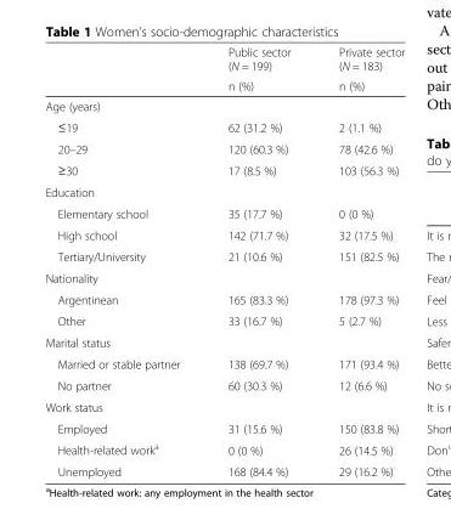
<table><thead><tr><td rowspan="2"></td><td rowspan="2">Public sector (N = 199) n (%)</td><td rowspan="2">Private sector (N = 183) n (%)</td></tr><tr></tr></thead><tbody><tr><td colspan="3">Age (years)</td></tr><tr><td>≤19</td><td>62 (31.2 %)</td><td>2 (1.1 %)</td></tr><tr><td>20–29</td><td>120 (60.3 %)</td><td>78 (42.6 %)</td></tr><tr><td>≥30</td><td>17 (8.5 %)</td><td>103 (56.3 %)</td></tr><tr><td colspan="3">Education</td></tr><tr><td>Elementary school</td><td>35 (17.7 %)</td><td>0 (0 %)</td></tr><tr><td>High school</td><td>142 (71.7 %)</td><td>32 (17.5 %)</td></tr><tr><td>Tertiary/University</td><td>21 (10.6 %)</td><td>151 (82.5 %)</td></tr><tr><td colspan="3">Nationality</td></tr><tr><td>Argentinean</td><td>165 (83.3 %)</td><td>178 (97.3 %)</td></tr><tr><td>Other</td><td>33 (16.7 %)</td><td>5 (2.7 %)</td></tr><tr><td colspan="3">Marital status</td></tr><tr><td>Married or stable partner</td><td>138 (69.7 %)</td><td>171 (93.4 %)</td></tr><tr><td>No partner</td><td>60 (30.3 %)</td><td>12 (6.6 %)</td></tr><tr><td colspan="3">Work status</td></tr><tr><td>Employed</td><td>31 (15.6 %)</td><td>150 (83.8 %)</td></tr><tr><td>Health-related work<sup>a</sup></td><td>0 (0 %)</td><td>26 (14.5 %)</td></tr><tr><td>Unemployed</td><td>168 (84.4 %)</td><td>29 (16.2 %)</td></tr></tbody></table>